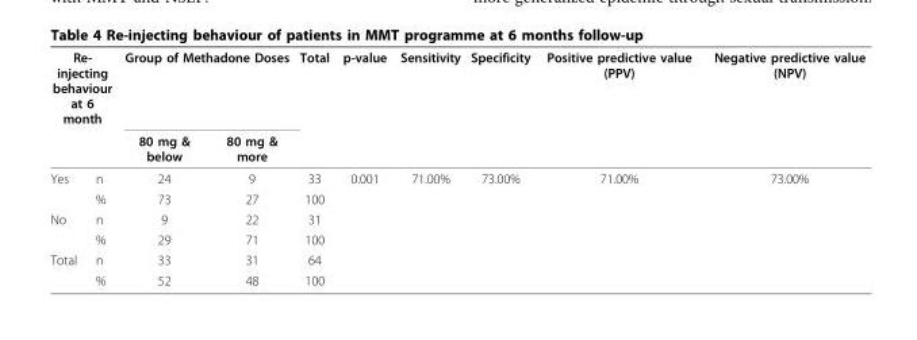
<table><thead><tr><td colspan="2">Re- injecting behaviour at 6 month</td><td colspan="2">Group of Methadone Doses</td><td rowspan="2">Total</td><td rowspan="2">p-value</td><td rowspan="2">Sensitivity</td><td rowspan="2">Specificity</td><td rowspan="2">Positive predictive value (PPV)</td><td rowspan="2">Negative predictive value (NPV)</td></tr><tr><td></td><td></td><td>80 mg &amp; below</td><td>80 mg &amp; more</td></tr></thead><tbody><tr><td rowspan="2">Yes</td><td>n</td><td>24</td><td>9</td><td>33</td><td>0.001</td><td>71.00%</td><td>73.00%</td><td>71.00%</td><td>73.00%</td></tr><tr><td>%</td><td>73</td><td>27</td><td>100</td><td></td><td></td><td></td><td></td><td></td></tr><tr><td rowspan="2">No</td><td>n</td><td>9</td><td>22</td><td>31</td><td></td><td></td><td></td><td></td><td></td></tr><tr><td>%</td><td>29</td><td>71</td><td>100</td><td></td><td></td><td></td><td></td><td></td></tr><tr><td rowspan="2">Total</td><td>n</td><td>33</td><td>31</td><td>64</td><td></td><td></td><td></td><td></td><td></td></tr><tr><td>%</td><td>52</td><td>48</td><td>100</td><td></td><td></td><td></td><td></td><td></td></tr></tbody></table>